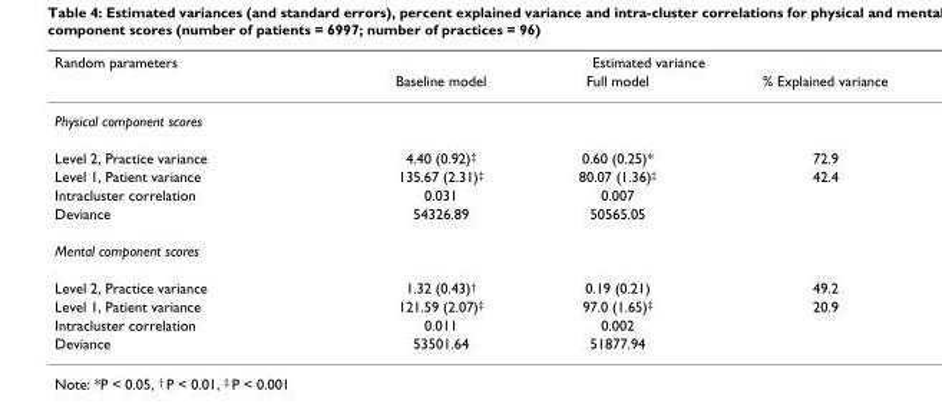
<table><thead><tr><td rowspan="2">Random parameters</td><td colspan="3">Estimated variance</td></tr><tr><td>Baseline model</td><td>Full model</td><td>% Explained variance</td></tr></thead><tbody><tr><td colspan="4">Physical component scores</td></tr><tr><td>Level 2, Practice variance</td><td>4.40 (0.92)<sup>‡</sup></td><td>0.60 (0.25)*</td><td>72.9</td></tr><tr><td>Level 1, Patient variance</td><td>135.67 (2.31)<sup>‡</sup></td><td>80.07 (1.36)<sup>‡</sup></td><td>42.4</td></tr><tr><td>Intracluster correlation</td><td>0.031</td><td>0.007</td><td></td></tr><tr><td>Deviance</td><td>54326.89</td><td>50565.05</td><td></td></tr><tr><td colspan="4">Mental component scores</td></tr><tr><td>Level 2, Practice variance</td><td>1.32 (0.43)<sup>†</sup></td><td>0.19 (0.21)</td><td>49.2</td></tr><tr><td>Level 1, Patient variance</td><td>121.59 (2.07)<sup>‡</sup></td><td>97.0 (1.65)<sup>‡</sup></td><td>20.9</td></tr><tr><td>Intracluster correlation</td><td>0.011</td><td>0.002</td><td></td></tr><tr><td>Deviance</td><td>53501.64</td><td>51877.94</td><td></td></tr></tbody></table>